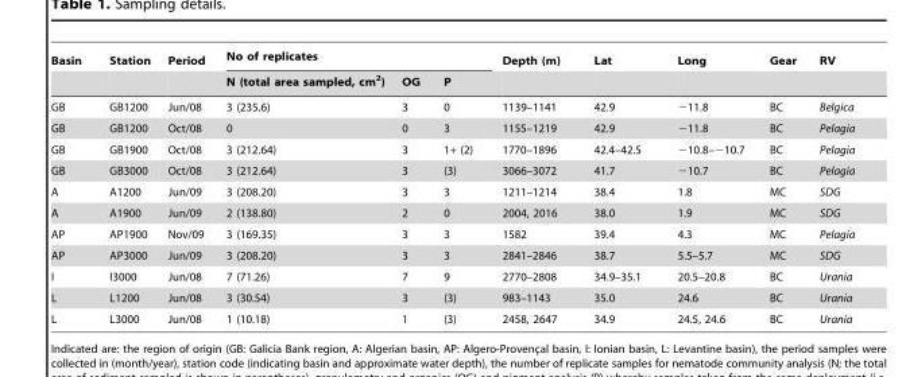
<table><thead><tr><td rowspan="2">Basin</td><td rowspan="2">Station</td><td rowspan="2">Period</td><td colspan="3">No of replicates</td><td rowspan="2">Depth (m)</td><td rowspan="2">Lat</td><td rowspan="2">Long</td><td rowspan="2">Gear</td><td rowspan="2">RV</td></tr><tr><td>N (total area sampled, cm<sup>2</sup>)</td><td>OG</td><td>P</td></tr></thead><tbody><tr><td>GB</td><td>GB1200</td><td>Jun/08</td><td>3 (235.6)</td><td>3</td><td>0</td><td>1139–1141</td><td>42.9</td><td>−11.8</td><td>BC</td><td>Belgica</td></tr><tr><td>GB</td><td>GB1200</td><td>Oct/08</td><td>0</td><td>0</td><td>3</td><td>1155–1219</td><td>42.9</td><td>−11.8</td><td>BC</td><td>Pelagia</td></tr><tr><td>GB</td><td>GB1900</td><td>Oct/08</td><td>3 (212.64)</td><td>3</td><td>1+ (2)</td><td>1770–1896</td><td>42.4–42.5</td><td>−10.8–−10.7</td><td>BC</td><td>Pelagia</td></tr><tr><td>GB</td><td>GB3000</td><td>Oct/08</td><td>3 (212.64)</td><td>3</td><td>(3)</td><td>3066–3072</td><td>41.7</td><td>−10.7</td><td>BC</td><td>Pelagia</td></tr><tr><td>A</td><td>A1200</td><td>Jun/09</td><td>3 (208.20)</td><td>3</td><td>3</td><td>1211–1214</td><td>38.4</td><td>1.8</td><td>MC</td><td>SDG</td></tr><tr><td>A</td><td>A1900</td><td>Jun/09</td><td>2 (138.80)</td><td>2</td><td>0</td><td>2004, 2016</td><td>38.0</td><td>1.9</td><td>MC</td><td>SDG</td></tr><tr><td>AP</td><td>AP1900</td><td>Nov/09</td><td>3 (169.35)</td><td>3</td><td>3</td><td>1582</td><td>39.4</td><td>4.3</td><td>MC</td><td>Pelagia</td></tr><tr><td>AP</td><td>AP3000</td><td>Jun/09</td><td>3 (208.20)</td><td>3</td><td>3</td><td>2841–2846</td><td>38.7</td><td>5.5–5.7</td><td>MC</td><td>SDG</td></tr><tr><td>I</td><td>I3000</td><td>Jun/08</td><td>7 (71.26)</td><td>7</td><td>9</td><td>2770–2808</td><td>34.9–35.1</td><td>20.5–20.8</td><td>BC</td><td>Urania</td></tr><tr><td>L</td><td>L1200</td><td>Jun/08</td><td>3 (30.54)</td><td>3</td><td>(3)</td><td>983–1143</td><td>35.0</td><td>24.6</td><td>BC</td><td>Urania</td></tr><tr><td>L</td><td>L3000</td><td>Jun/08</td><td>1 (10.18)</td><td>1</td><td>(3)</td><td>2458, 2647</td><td>34.9</td><td>24.5, 24.6</td><td>BC</td><td>Urania</td></tr></tbody></table>